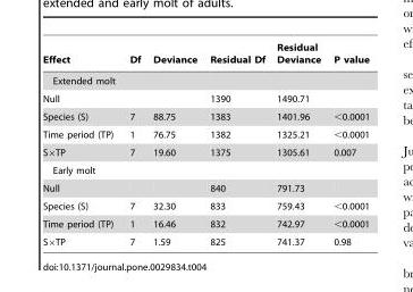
<table><thead><tr><td>Effect</td><td>Df</td><td>Deviance</td><td>Residual Df</td><td>Residual Deviance</td><td>P value</td></tr></thead><tbody><tr><td colspan="6">Extended molt</td></tr><tr><td>Null</td><td></td><td></td><td>1390</td><td>1490.71</td><td></td></tr><tr><td>Species (S)</td><td>7</td><td>88.75</td><td>1383</td><td>1401.96</td><td>&lt;0.0001</td></tr><tr><td>Time period (TP)</td><td>1</td><td>76.75</td><td>1382</td><td>1325.21</td><td>&lt;0.0001</td></tr><tr><td>S×TP</td><td>7</td><td>19.60</td><td>1375</td><td>1305.61</td><td>0.007</td></tr><tr><td colspan="6">Early molt</td></tr><tr><td>Null</td><td></td><td></td><td>840</td><td>791.73</td><td></td></tr><tr><td>Species (S)</td><td>7</td><td>32.30</td><td>833</td><td>759.43</td><td>&lt;0.0001</td></tr><tr><td>Time period (TP)</td><td>1</td><td>16.46</td><td>832</td><td>742.97</td><td>&lt;0.0001</td></tr><tr><td>S×TP</td><td>7</td><td>1.59</td><td>825</td><td>741.37</td><td>0.98</td></tr></tbody></table>